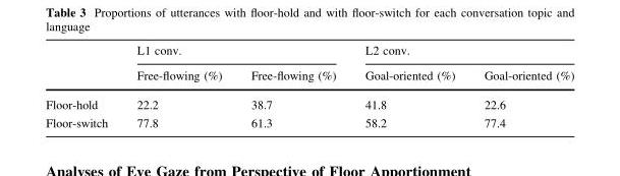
<table><thead><tr><td rowspan="2"></td><td colspan="2">L1 conv.</td><td colspan="2">L2 conv.</td></tr><tr><td>Free-flowing (%)</td><td>Free-flowing (%)</td><td>Goal-oriented (%)</td><td>Goal-oriented (%)</td></tr></thead><tbody><tr><td>Floor-hold</td><td>22.2</td><td>38.7</td><td>41.8</td><td>22.6</td></tr><tr><td>Floor-switch</td><td>77.8</td><td>61.3</td><td>58.2</td><td>77.4</td></tr></tbody></table>